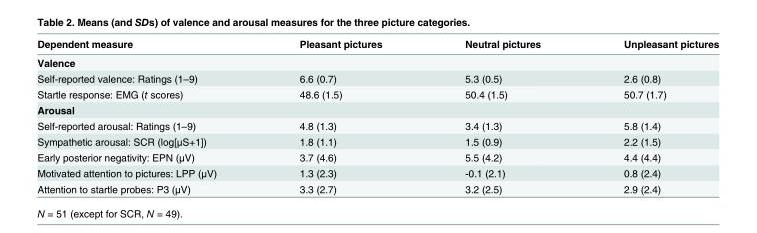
<table><thead><tr><td>Dependent measure</td><td>Pleasant pictures</td><td>Neutral pictures</td><td>Unpleasant pictures</td></tr></thead><tbody><tr><td colspan="4">Valence</td></tr><tr><td>Self-reported valence: Ratings (1–9)</td><td>6.6 (0.7)</td><td>5.3 (0.5)</td><td>2.6 (0.8)</td></tr><tr><td>Startle response: EMG (t scores)</td><td>48.6 (1.5)</td><td>50.4 (1.5)</td><td>50.7 (1.7)</td></tr><tr><td colspan="4">Arousal</td></tr><tr><td>Self-reported arousal: Ratings (1–9)</td><td>4.8 (1.3)</td><td>3.4 (1.3)</td><td>5.8 (1.4)</td></tr><tr><td>Sympathetic arousal: SCR (log[μS+1])</td><td>1.8 (1.1)</td><td>1.5 (0.9)</td><td>2.2 (1.5)</td></tr><tr><td>Early posterior negativity: EPN (μV)</td><td>3.7 (4.6)</td><td>5.5 (4.2)</td><td>4.4 (4.4)</td></tr><tr><td>Motivated attention to pictures: LPP (μV)</td><td>1.3 (2.3)</td><td>-0.1 (2.1)</td><td>0.8 (2.4)</td></tr><tr><td>Attention to startle probes: P3 (μV)</td><td>3.3 (2.7)</td><td>3.2 (2.5)</td><td>2.9 (2.4)</td></tr></tbody></table>